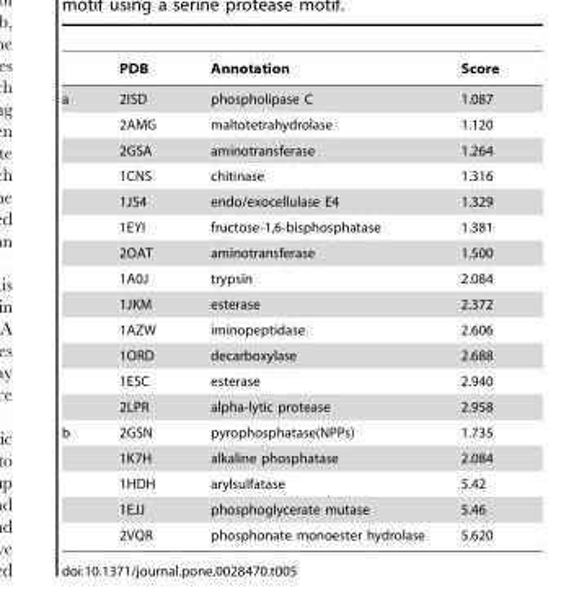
<table><thead><tr><td></td><td>PDB</td><td>Annotation</td><td>Score</td></tr></thead><tbody><tr><td rowspan="13">a</td><td>2ISD</td><td>phospholipase C</td><td>1.087</td></tr><tr><td>2AMG</td><td>maltotetrahydrolase</td><td>1.120</td></tr><tr><td>2GSA</td><td>aminotransferase</td><td>1.264</td></tr><tr><td>1CNS</td><td>chitinase</td><td>1.316</td></tr><tr><td>1JS4</td><td>endo/exocellulase E4</td><td>1.329</td></tr><tr><td>1EYI</td><td>fructose-1,6-bisphosphatase</td><td>1.381</td></tr><tr><td>2OAT</td><td>aminotransferase</td><td>1.500</td></tr><tr><td>1A0J</td><td>trypsin</td><td>2.084</td></tr><tr><td>1JKM</td><td>esterase</td><td>2.372</td></tr><tr><td>1AZW</td><td>iminopeptidase</td><td>2.606</td></tr><tr><td>1ORD</td><td>decarboxylase</td><td>2.688</td></tr><tr><td>1ESC</td><td>esterase</td><td>2.940</td></tr><tr><td>2LPR</td><td>alpha-lytic protease</td><td>2.958</td></tr><tr><td rowspan="5">b</td><td>2GSN</td><td>pyrophosphatase(NPPs)</td><td>1.735</td></tr><tr><td>1K7H</td><td>alkaline phosphatase</td><td>2.084</td></tr><tr><td>1HDH</td><td>arylsulfatase</td><td>5.42</td></tr><tr><td>1EJJ</td><td>phosphoglycerate mutase</td><td>5.46</td></tr><tr><td>2VQR</td><td>phosphonate monoester hydrolase</td><td>5.620</td></tr></tbody></table>